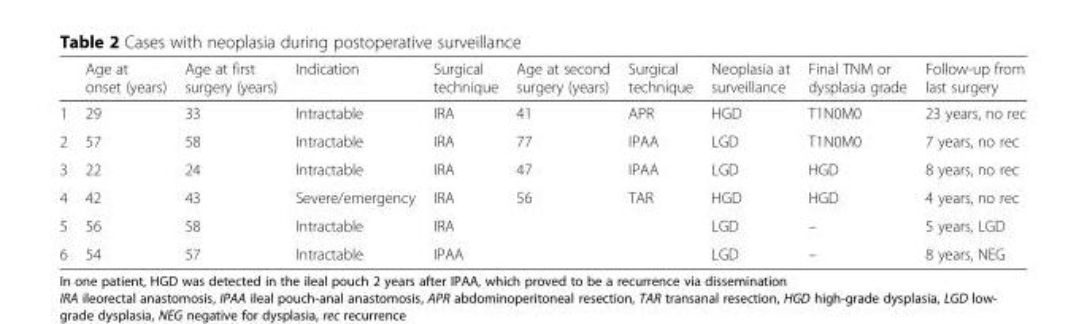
<table><thead><tr><td></td><td>Age at onset (years)</td><td>Age at first surgery (years)</td><td>Indication</td><td>Surgical technique</td><td>Age at second surgery (years)</td><td>Surgical technique</td><td>Neoplasia at surveillance</td><td>Final TNM or dysplasia grade</td><td>Follow-up from last surgery</td></tr></thead><tbody><tr><td>1</td><td>29</td><td>33</td><td>Intractable</td><td>IRA</td><td>41</td><td>APR</td><td>HGD</td><td>T1N0M0</td><td>23 years, no rec</td></tr><tr><td>2</td><td>57</td><td>58</td><td>Intractable</td><td>IRA</td><td>77</td><td>IPAA</td><td>LGD</td><td>T1N0M0</td><td>7 years, no rec</td></tr><tr><td>3</td><td>22</td><td>24</td><td>Intractable</td><td>IRA</td><td>47</td><td>IPAA</td><td>LGD</td><td>HGD</td><td>8 years, no rec</td></tr><tr><td>4</td><td>42</td><td>43</td><td>Severe/emergency</td><td>IRA</td><td>56</td><td>TAR</td><td>HGD</td><td>HGD</td><td>4 years, no rec</td></tr><tr><td>5</td><td>56</td><td>58</td><td>Intractable</td><td>IRA</td><td></td><td></td><td>LGD</td><td>–</td><td>5 years, LGD</td></tr><tr><td>6</td><td>54</td><td>57</td><td>Intractable</td><td>IPAA</td><td></td><td></td><td>LGD</td><td>–</td><td>8 years, NEG</td></tr></tbody></table>